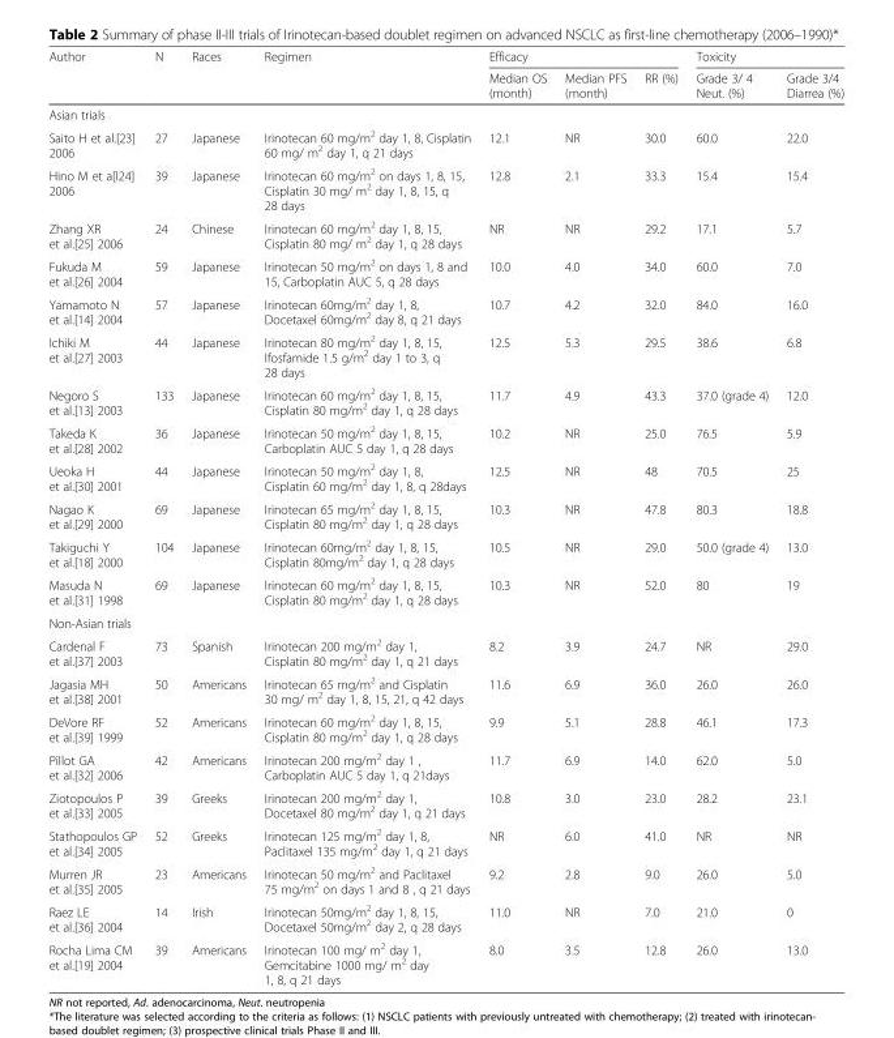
<table><thead><tr><td rowspan="2">Author</td><td rowspan="2">N</td><td rowspan="2">Races</td><td rowspan="2">Regimen</td><td colspan="3">Efficacy</td><td colspan="2">Toxicity</td></tr><tr><td>Median OS (month)</td><td>Median PFS (month)</td><td>RR (%)</td><td>Grade 3/ 4 Neut. (%)</td><td>Grade 3/4 Diarrea (%)</td></tr></thead><tbody><tr><td colspan="9">Asian trials</td></tr><tr><td>Saito H et al.[23] 2006</td><td>27</td><td>Japanese</td><td>Irinotecan 60 mg/m<sup>2</sup> day 1, 8, Cisplatin 60 mg/ m<sup>2</sup> day 1, q 21 days</td><td>12.1</td><td>NR</td><td>30.0</td><td>60.0</td><td>22.0</td></tr><tr><td>Hino M et a[l24] 2006</td><td>39</td><td>Japanese</td><td>Irinotecan 60 mg/m<sup>2</sup> on days 1, 8, 15, Cisplatin 30 mg/ m<sup>2</sup> day 1, 8, 15, q 28 days</td><td>12.8</td><td>2.1</td><td>33.3</td><td>15.4</td><td>15.4</td></tr><tr><td>Zhang XR et al.[25] 2006</td><td>24</td><td>Chinese</td><td>Irinotecan 60 mg/m<sup>2</sup> day 1, 8, 15, Cisplatin 80 mg/ m<sup>2</sup> day 1, q 28 days</td><td>NR</td><td>NR</td><td>29.2</td><td>17.1</td><td>5.7</td></tr><tr><td>Fukuda M et al.[26] 2004</td><td>59</td><td>Japanese</td><td>Irinotecan 50 mg/m<sup>2</sup> on days 1, 8 and 15, Carboplatin AUC 5, q 28 days</td><td>10.0</td><td>4.0</td><td>34.0</td><td>60.0</td><td>7.0</td></tr><tr><td>Yamamoto N et al.[14] 2004</td><td>57</td><td>Japanese</td><td>Irinotecan 60mg/m<sup>2</sup> day 1, 8, Docetaxel 60mg/m<sup>2</sup> day 8, q 21 days</td><td>10.7</td><td>4.2</td><td>32.0</td><td>84.0</td><td>16.0</td></tr><tr><td>Ichiki M et al.[27] 2003</td><td>44</td><td>Japanese</td><td>Irinotecan 80 mg/m<sup>2</sup> day 1, 8, 15, Ifosfamide 1.5 g/m<sup>2</sup> day 1 to 3, q 28 days</td><td>12.5</td><td>5.3</td><td>29.5</td><td>38.6</td><td>6.8</td></tr><tr><td>Negoro S et al.[13] 2003</td><td>133</td><td>Japanese</td><td>Irinotecan 60 mg/m<sup>2</sup> day 1, 8, 15, Cisplatin 80 mg/m<sup>2</sup> day 1, q 28 days</td><td>11.7</td><td>4.9</td><td>43.3</td><td>37.0 (grade 4)</td><td>12.0</td></tr><tr><td>Takeda K et al.[28] 2002</td><td>36</td><td>Japanese</td><td>Irinotecan 50 mg/m<sup>2</sup> day 1, 8, 15, Carboplatin AUC 5 day 1, q 28 days</td><td>10.2</td><td>NR</td><td>25.0</td><td>76.5</td><td>5.9</td></tr><tr><td>Ueoka H et al.[30] 2001</td><td>44</td><td>Japanese</td><td>Irinotecan 50 mg/m<sup>2</sup> day 1, 8, Cisplatin 60 mg/m<sup>2</sup> day 1, 8, q 28days</td><td>12.5</td><td>NR</td><td>48</td><td>70.5</td><td>25</td></tr><tr><td>Nagao K et al.[29] 2000</td><td>69</td><td>Japanese</td><td>Irinotecan 65 mg/m<sup>2</sup> day 1, 8, 15, Cisplatin 80 mg/m<sup>2</sup> day 1, q 28 days</td><td>10.3</td><td>NR</td><td>47.8</td><td>80.3</td><td>18.8</td></tr><tr><td>Takiguchi Y et al.[18] 2000</td><td>104</td><td>Japanese</td><td>Irinotecan 60mg/m<sup>2</sup> day 1, 8, 15, Cisplatin 80mg/m<sup>2</sup> day 1, q 28 days</td><td>10.5</td><td>NR</td><td>29.0</td><td>50.0 (grade 4)</td><td>13.0</td></tr><tr><td>Masuda N et al.[31] 1998</td><td>69</td><td>Japanese</td><td>Irinotecan 60 mg/m<sup>2</sup> day 1, 8, 15, Cisplatin 80 mg/m<sup>2</sup> day 1, q 28 days</td><td>10.3</td><td>NR</td><td>52.0</td><td>80</td><td>19</td></tr><tr><td colspan="9">Non-Asian trials</td></tr><tr><td>Cardenal F et al.[37] 2003</td><td>73</td><td>Spanish</td><td>Irinotecan 200 mg/m<sup>2</sup> day 1, Cisplatin 80 mg/m<sup>2</sup> day 1, q 21 days</td><td>8.2</td><td>3.9</td><td>24.7</td><td>NR</td><td>29.0</td></tr><tr><td>Jagasia MH et al.[38] 2001</td><td>50</td><td>Americans</td><td>Irinotecan 65 mg/m<sup>2</sup> and Cisplatin 30 mg/ m<sup>2</sup> day 1, 8, 15, 21, q 42 days</td><td>11.6</td><td>6.9</td><td>36.0</td><td>26.0</td><td>26.0</td></tr><tr><td>DeVore RF et al.[39] 1999</td><td>52</td><td>Americans</td><td>Irinotecan 60 mg/m<sup>2</sup> day 1, 8, 15, Cisplatin 80 mg/m<sup>2</sup> day 1, q 28 days</td><td>9.9</td><td>5.1</td><td>28.8</td><td>46.1</td><td>17.3</td></tr><tr><td>Pillot GA et al.[32] 2006</td><td>42</td><td>Americans</td><td>Irinotecan 200 mg/m<sup>2</sup> day 1 , Carboplatin AUC 5 day 1, q 21days</td><td>11.7</td><td>6.9</td><td>14.0</td><td>62.0</td><td>5.0</td></tr><tr><td>Ziotopoulos P et al.[33] 2005</td><td>39</td><td>Greeks</td><td>Irinotecan 200 mg/m<sup>2</sup> day 1, Docetaxel 80 mg/m<sup>2</sup> day 1, q 21 days</td><td>10.8</td><td>3.0</td><td>23.0</td><td>28.2</td><td>23.1</td></tr><tr><td>Stathopoulos GP et al.[34] 2005</td><td>52</td><td>Greeks</td><td>Irinotecan 125 mg/m<sup>2</sup> day 1, 8, Paclitaxel 135 mg/m<sup>2</sup> day 1, q 21 days</td><td>NR</td><td>6.0</td><td>41.0</td><td>NR</td><td>NR</td></tr><tr><td>Murren JR et al.[35] 2005</td><td>23</td><td>Americans</td><td>Irinotecan 50 mg/m<sup>2</sup> and Paclitaxel 75 mg/m<sup>2</sup> on days 1 and 8 , q 21 days</td><td>9.2</td><td>2.8</td><td>9.0</td><td>26.0</td><td>5.0</td></tr><tr><td>Raez LE et al.[36] 2004</td><td>14</td><td>Irish</td><td>Irinotecan 50mg/m<sup>2</sup> day 1, 8, 15, Docetaxel 50mg/m<sup>2</sup> day 2, q 28 days</td><td>11.0</td><td>NR</td><td>7.0</td><td>21.0</td><td>0</td></tr><tr><td>Rocha Lima CM et al.[19] 2004</td><td>39</td><td>Americans</td><td>Irinotecan 100 mg/ m<sup>2</sup> day 1, Gemcitabine 1000 mg/ m<sup>2</sup> day 1, 8, q 21 days</td><td>8.0</td><td>3.5</td><td>12.8</td><td>26.0</td><td>13.0</td></tr></tbody></table>